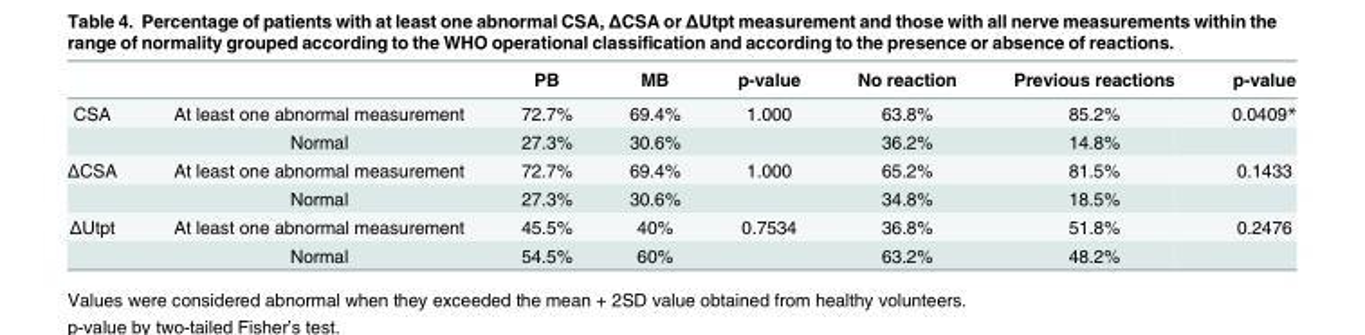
<table><thead><tr><td></td><td></td><td>PB</td><td>MB</td><td>p-value</td><td>No reaction</td><td>Previous reactions</td><td>p-value</td></tr></thead><tbody><tr><td rowspan="2">CSA</td><td>At least one abnormal measurement</td><td>72.7%</td><td>69.4%</td><td>1.000</td><td>63.8%</td><td>85.2%</td><td>0.0409*</td></tr><tr><td>Normal</td><td>27.3%</td><td>30.6%</td><td></td><td>36.2%</td><td>14.8%</td><td></td></tr><tr><td rowspan="2">ΔCSA</td><td>At least one abnormal measurement</td><td>72.7%</td><td>69.4%</td><td>1.000</td><td>65.2%</td><td>81.5%</td><td>0.1433</td></tr><tr><td>Normal</td><td>27.3%</td><td>30.6%</td><td></td><td>34.8%</td><td>18.5%</td><td></td></tr><tr><td rowspan="2">ΔUtpt</td><td>At least one abnormal measurement</td><td>45.5%</td><td>40%</td><td>0.7534</td><td>36.8%</td><td>51.8%</td><td>0.2476</td></tr><tr><td>Normal</td><td>54.5%</td><td>60%</td><td></td><td>63.2%</td><td>48.2%</td><td></td></tr></tbody></table>